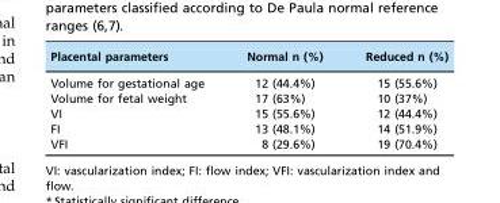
<table><thead><tr><td>Placental parameters</td><td>Normal n (%)</td><td>Reduced n (%)</td></tr></thead><tbody><tr><td>Volume for gestational age</td><td>12 (44.4%)</td><td>15 (55.6%)</td></tr><tr><td>Volume for fetal weight</td><td>17 (63%)</td><td>10 (37%)</td></tr><tr><td>VI</td><td>15 (55.6%)</td><td>12 (44.4%)</td></tr><tr><td>FI</td><td>13 (48.1%)</td><td>14 (51.9%)</td></tr><tr><td>VFI</td><td>8 (29.6%)</td><td>19 (70.4%)</td></tr></tbody></table>